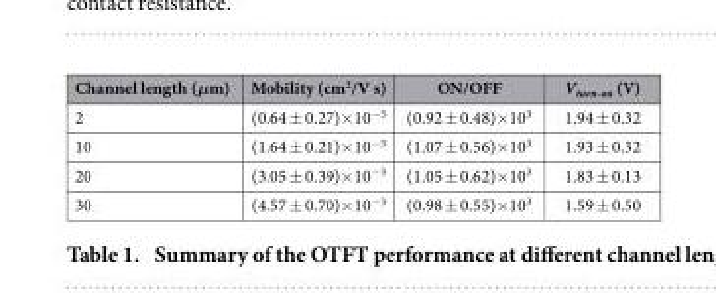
<table><thead><tr><td>Channel length (μm)</td><td>Mobility (cm<sup>2</sup>/V s)</td><td>ON/OFF</td><td>V<sub>turn-on</sub> (V)</td></tr></thead><tbody><tr><td>2</td><td>(0.64 ± 0.27)× 10<sup>−3</sup></td><td>(0.92 ± 0.48)× 10<sup>3</sup></td><td>1.94 ± 0.32</td></tr><tr><td>10</td><td>(1.64 ± 0.21)× 10<sup>−3</sup></td><td>(1.07 ± 0.56)× 10<sup>3</sup></td><td>1.93 ± 0.32</td></tr><tr><td>20</td><td>(3.05 ± 0.39)× 10<sup>−3</sup></td><td>(1.05 ± 0.62)× 10<sup>3</sup></td><td>1.83 ± 0.13</td></tr><tr><td>30</td><td>(4.57 ± 0.70)× 10<sup>−3</sup></td><td>(0.98 ± 0.55)× 10<sup>3</sup></td><td>1.59 ± 0.50</td></tr></tbody></table>